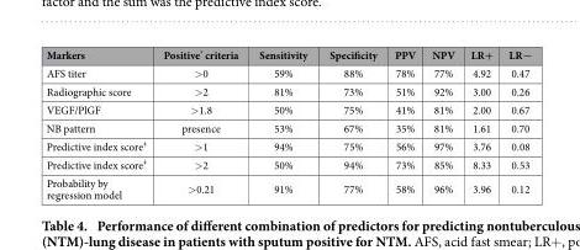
<table><thead><tr><td>Markers</td><td>Positive* criteria</td><td>Sensitivity</td><td>Specificity</td><td>PPV</td><td>NPV</td><td>LR+</td><td>LR−</td></tr></thead><tbody><tr><td>AFS titer</td><td>&gt; 0</td><td>59%</td><td>88%</td><td>78%</td><td>77%</td><td>4.92</td><td>0.47</td></tr><tr><td>Radiographic score</td><td>&gt; 2</td><td>81%</td><td>73%</td><td>51%</td><td>92%</td><td>3.00</td><td>0.26</td></tr><tr><td>VEGF/PlGF</td><td>&gt; 1.8</td><td>50%</td><td>75%</td><td>41%</td><td>81%</td><td>2.00</td><td>0.67</td></tr><tr><td>NB pattern</td><td>presence</td><td>53%</td><td>67%</td><td>35%</td><td>81%</td><td>1.61</td><td>0.70</td></tr><tr><td>Predictive index scoreǂ</td><td>&gt; 1</td><td>94%</td><td>75%</td><td>56%</td><td>97%</td><td>3.76</td><td>0.08</td></tr><tr><td>Predictive index scoreǂ</td><td>&gt; 2</td><td>50%</td><td>94%</td><td>73%</td><td>85%</td><td>8.33</td><td>0.53</td></tr><tr><td>Probability by regression model</td><td>&gt; 0.21</td><td>91%</td><td>77%</td><td>58%</td><td>96%</td><td>3.96</td><td>0.12</td></tr></tbody></table>